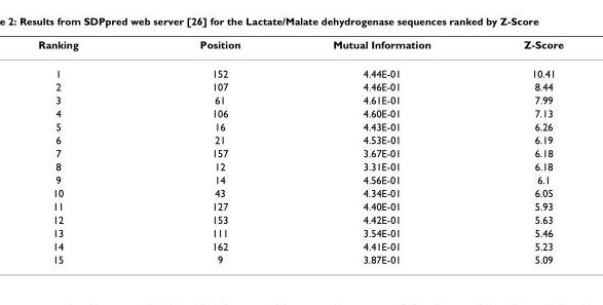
<table><thead><tr><td>Ranking</td><td>Position</td><td>Mutual Information</td><td>Z-Score</td></tr></thead><tbody><tr><td>1</td><td>152</td><td>4.44E-01</td><td>10.41</td></tr><tr><td>2</td><td>107</td><td>4.46E-01</td><td>8.44</td></tr><tr><td>3</td><td>61</td><td>4.61E-01</td><td>7.99</td></tr><tr><td>4</td><td>106</td><td>4.60E-01</td><td>7.13</td></tr><tr><td>5</td><td>16</td><td>4.43E-01</td><td>6.26</td></tr><tr><td>6</td><td>21</td><td>4.53E-01</td><td>6.19</td></tr><tr><td>7</td><td>157</td><td>3.67E-01</td><td>6.18</td></tr><tr><td>8</td><td>12</td><td>3.31E-01</td><td>6.18</td></tr><tr><td>9</td><td>14</td><td>4.56E-01</td><td>6.1</td></tr><tr><td>10</td><td>43</td><td>4.34E-01</td><td>6.05</td></tr><tr><td>11</td><td>127</td><td>4.40E-01</td><td>5.93</td></tr><tr><td>12</td><td>153</td><td>4.42E-01</td><td>5.63</td></tr><tr><td>13</td><td>111</td><td>3.54E-01</td><td>5.46</td></tr><tr><td>14</td><td>162</td><td>4.41E-01</td><td>5.23</td></tr><tr><td>15</td><td>9</td><td>3.87E-01</td><td>5.09</td></tr></tbody></table>